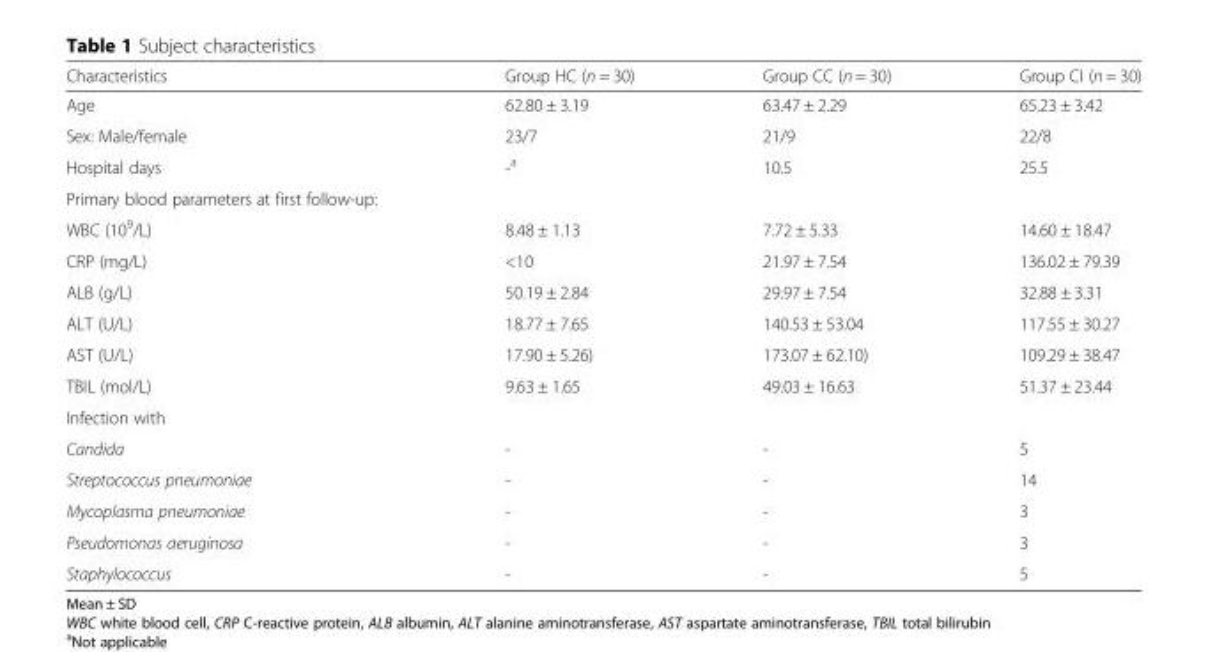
<table><thead><tr><td>Characteristics</td><td>Group HC (n = 30)</td><td>Group CC (n = 30)</td><td>Group CI (n = 30)</td></tr></thead><tbody><tr><td>Age</td><td>62.80 ± 3.19</td><td>63.47 ± 2.29</td><td>65.23 ± 3.42</td></tr><tr><td>Sex: Male/female</td><td>23/7</td><td>21/9</td><td>22/8</td></tr><tr><td>Hospital days</td><td>-<sup>a</sup></td><td>10.5</td><td>25.5</td></tr><tr><td colspan="4">Primary blood parameters at first follow-up:</td></tr><tr><td>WBC (10<sup>9</sup>/L)</td><td>8.48 ± 1.13</td><td>7.72 ± 5.33</td><td>14.60 ± 18.47</td></tr><tr><td>CRP (mg/L)</td><td>&lt;10</td><td>21.97 ± 7.54</td><td>136.02 ± 79.39</td></tr><tr><td>ALB (g/L)</td><td>50.19 ± 2.84</td><td>29.97 ± 7.54</td><td>32.88 ± 3.31</td></tr><tr><td>ALT (U/L)</td><td>18.77 ± 7.65</td><td>140.53 ± 53.04</td><td>117.55 ± 30.27</td></tr><tr><td>AST (U/L)</td><td>17.90 ± 5.26)</td><td>173.07 ± 62.10)</td><td>109.29 ± 38.47</td></tr><tr><td>TBIL (mol/L)</td><td>9.63 ± 1.65</td><td>49.03 ± 16.63</td><td>51.37 ± 23.44</td></tr><tr><td colspan="4">Infection with</td></tr><tr><td>Candida</td><td>-</td><td>-</td><td>5</td></tr><tr><td>Streptococcus pneumoniae</td><td>-</td><td>-</td><td>14</td></tr><tr><td>Mycoplasma pneumoniae</td><td>-</td><td>-</td><td>3</td></tr><tr><td>Pseudomonas aeruginosa</td><td>-</td><td>-</td><td>3</td></tr><tr><td>Staphylococcus</td><td>-</td><td>-</td><td>5</td></tr></tbody></table>